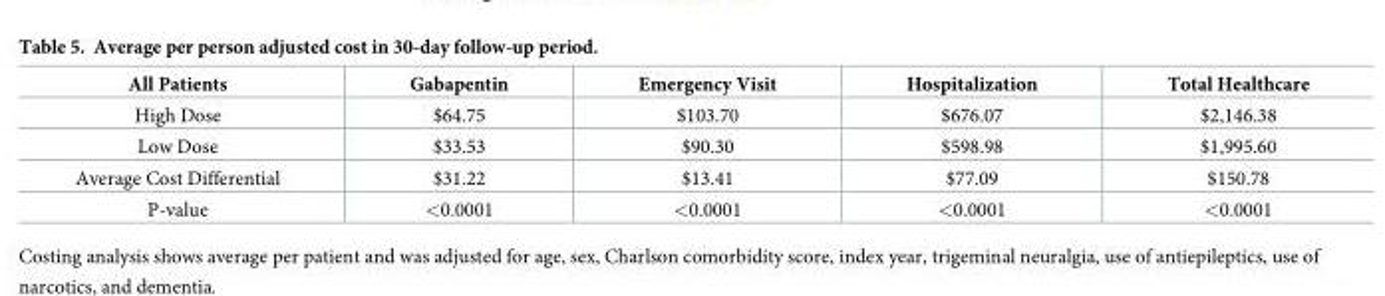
<table><thead><tr><td>All Patients</td><td>Gabapentin</td><td>Emergency Visit</td><td>Hospitalization</td><td>Total Healthcare</td></tr></thead><tbody><tr><td>High Dose</td><td>$64.75</td><td>$103.70</td><td>$676.07</td><td>$2,146.38</td></tr><tr><td>Low Dose</td><td>$33.53</td><td>$90.30</td><td>$598.98</td><td>$1,995.60</td></tr><tr><td>Average Cost Differential</td><td>$31.22</td><td>$13.41</td><td>$77.09</td><td>$150.78</td></tr><tr><td>P-value</td><td>&lt;0.0001</td><td>&lt;0.0001</td><td>&lt;0.0001</td><td>&lt;0.0001</td></tr></tbody></table>